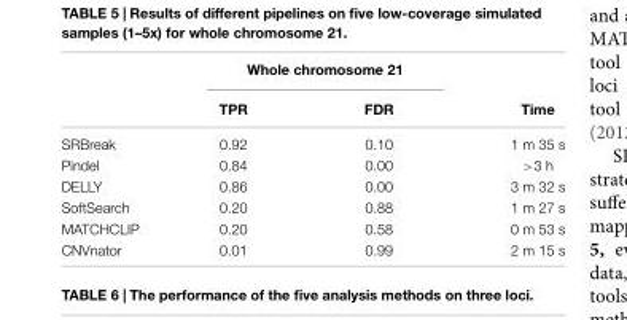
<table><thead><tr><td rowspan="2"></td><td colspan="2">Whole chromosome 21</td><td rowspan="2">Time</td></tr><tr><td>TPR</td><td>FDR</td></tr></thead><tbody><tr><td>SRBreak</td><td>0.92</td><td>0.10</td><td>1 m 35 s</td></tr><tr><td>Pindel</td><td>0.84</td><td>0.00</td><td>&gt;3 h</td></tr><tr><td>DELLY</td><td>0.86</td><td>0.00</td><td>3 m 32 s</td></tr><tr><td>SoftSearch</td><td>0.20</td><td>0.88</td><td>1 m 27 s</td></tr><tr><td>MATCHCLIP</td><td>0.20</td><td>0.58</td><td>0 m 53 s</td></tr><tr><td>CNVnator</td><td>0.01</td><td>0.99</td><td>2 m 15 s</td></tr></tbody></table>